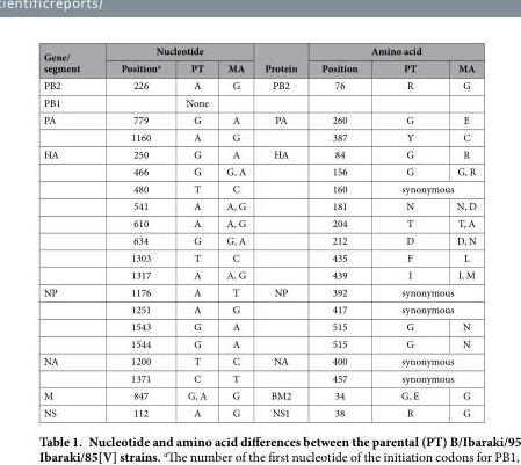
<table><thead><tr><td rowspan="2">Gene/ segment</td><td colspan="3">Nucleotide</td><td rowspan="2">Protein</td><td colspan="3">Amino acid</td></tr><tr><td>Position<sup>a</sup></td><td>PT</td><td>MA</td><td>Position</td><td>PT</td><td>MA</td></tr></thead><tbody><tr><td>PB2</td><td>226</td><td>A</td><td>G</td><td>PB2</td><td>76</td><td>R</td><td>G</td></tr><tr><td>PB1</td><td></td><td>None</td><td></td><td></td><td></td><td></td><td></td></tr><tr><td rowspan="2">PA</td><td>779</td><td>G</td><td>A</td><td>PA</td><td>260</td><td>G</td><td>E</td></tr><tr><td>1160</td><td>A</td><td>G</td><td></td><td>387</td><td>Y</td><td>C</td></tr><tr><td rowspan="8">HA</td><td>250</td><td>G</td><td>A</td><td>HA</td><td>84</td><td>G</td><td>R</td></tr><tr><td>466</td><td>G</td><td>G, A</td><td></td><td>156</td><td>G</td><td>G, R</td></tr><tr><td>480</td><td>T</td><td>C</td><td></td><td>160</td><td colspan="2">synonymous</td></tr><tr><td>541</td><td>A</td><td>A, G</td><td></td><td>181</td><td>N</td><td>N, D</td></tr><tr><td>610</td><td>A</td><td>A, G</td><td></td><td>204</td><td>T</td><td>T, A</td></tr><tr><td>634</td><td>G</td><td>G, A</td><td></td><td>212</td><td>D</td><td>D, N</td></tr><tr><td>1303</td><td>T</td><td>C</td><td></td><td>435</td><td>F</td><td>L</td></tr><tr><td>1317</td><td>A</td><td>A, G</td><td></td><td>439</td><td>I</td><td>I, M</td></tr><tr><td rowspan="4">NP</td><td>1176</td><td>A</td><td>T</td><td>NP</td><td>392</td><td colspan="2">synonymous</td></tr><tr><td>1251</td><td>A</td><td>G</td><td></td><td>417</td><td colspan="2">synonymous</td></tr><tr><td>1543</td><td>G</td><td>A</td><td></td><td>515</td><td>G</td><td>N</td></tr><tr><td>1544</td><td>G</td><td>A</td><td></td><td>515</td><td>G</td><td>N</td></tr><tr><td rowspan="2">NA</td><td>1200</td><td>T</td><td>C</td><td>NA</td><td>400</td><td colspan="2">synonymous</td></tr><tr><td>1371</td><td>C</td><td>T</td><td></td><td>457</td><td colspan="2">synonymous</td></tr><tr><td>M</td><td>847</td><td>G, A</td><td>G</td><td>BM2</td><td>34</td><td>G, E</td><td>G</td></tr><tr><td>NS</td><td>112</td><td>A</td><td>G</td><td>NS1</td><td>38</td><td>R</td><td>G</td></tr></tbody></table>